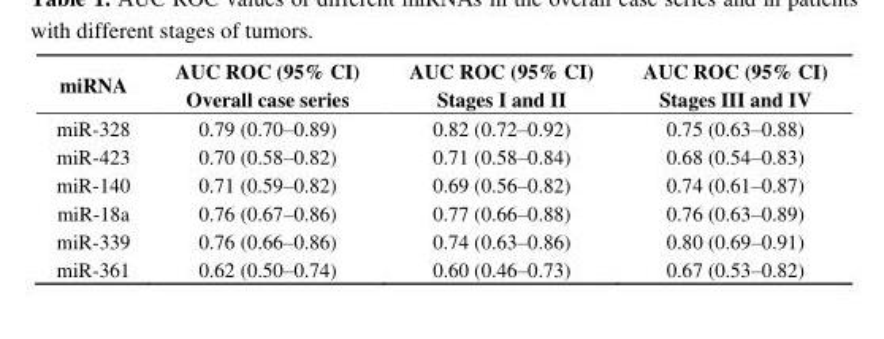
<table><thead><tr><td>miRNA</td><td>AUC ROC (95% CI) Overall case series</td><td>AUC ROC (95% CI) Stages I and II</td><td>AUC ROC (95% CI) Stages III and IV</td></tr></thead><tbody><tr><td>miR-328</td><td>0.79 (0.70–0.89)</td><td>0.82 (0.72–0.92)</td><td>0.75 (0.63–0.88)</td></tr><tr><td>miR-423</td><td>0.70 (0.58–0.82)</td><td>0.71 (0.58–0.84)</td><td>0.68 (0.54–0.83)</td></tr><tr><td>miR-140</td><td>0.71 (0.59–0.82)</td><td>0.69 (0.56–0.82)</td><td>0.74 (0.61–0.87)</td></tr><tr><td>miR-18a</td><td>0.76 (0.67–0.86)</td><td>0.77 (0.66–0.88)</td><td>0.76 (0.63–0.89)</td></tr><tr><td>miR-339</td><td>0.76 (0.66–0.86)</td><td>0.74 (0.63–0.86)</td><td>0.80 (0.69–0.91)</td></tr><tr><td>miR-361</td><td>0.62 (0.50–0.74)</td><td>0.60 (0.46–0.73)</td><td>0.67 (0.53–0.82)</td></tr></tbody></table>